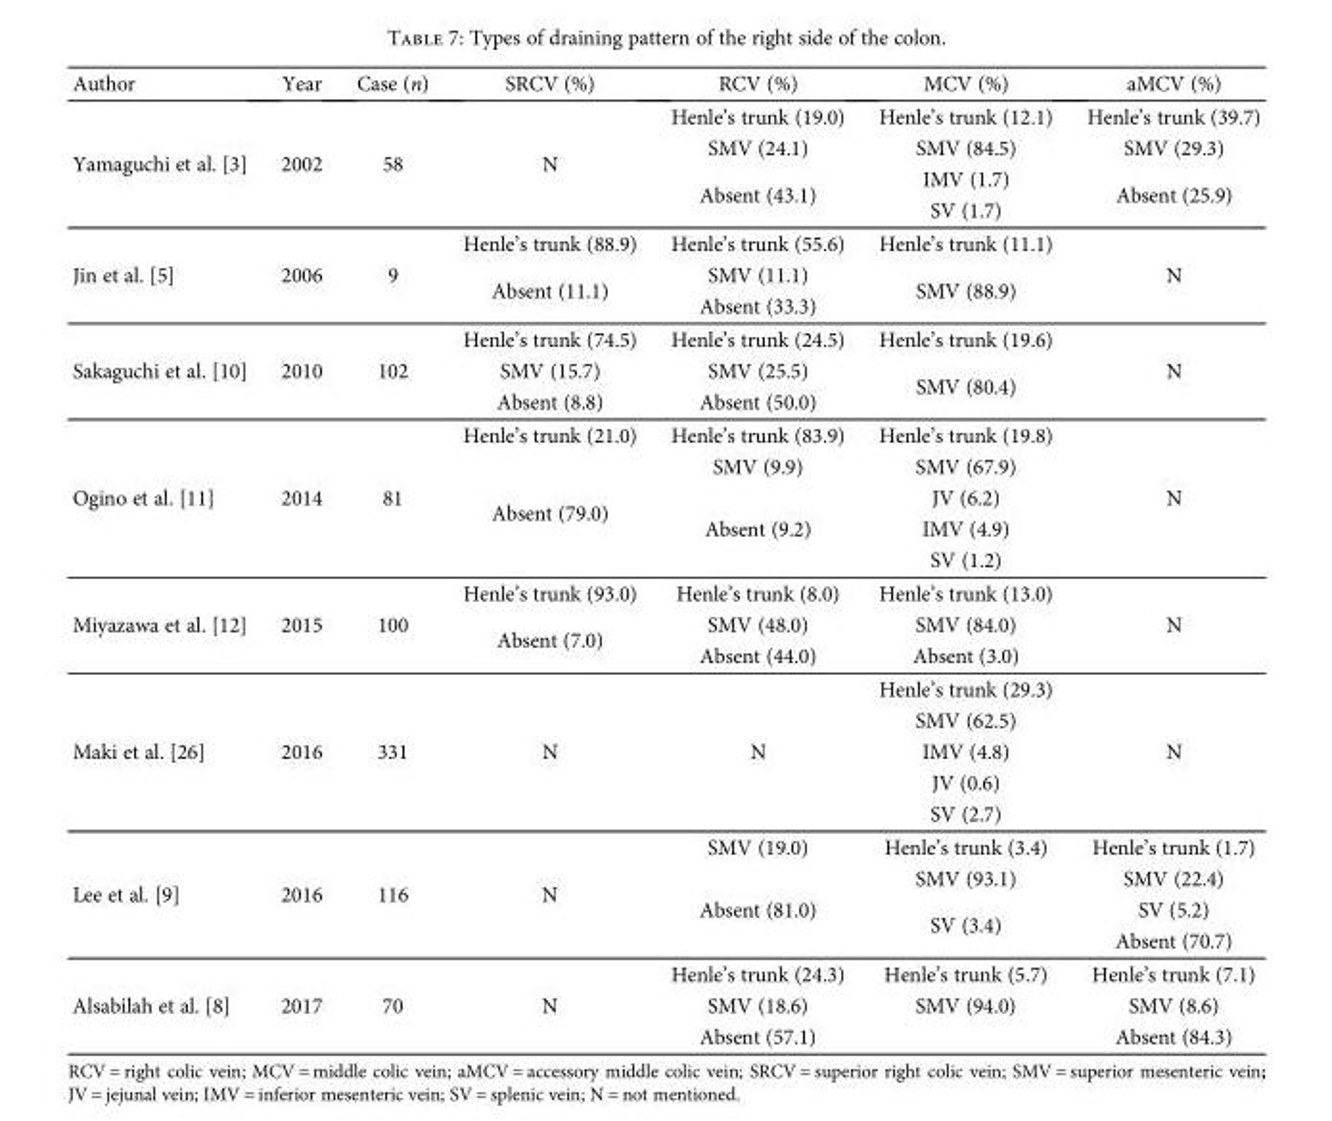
<table><thead><tr><td>Author</td><td>Year</td><td>Case (n)</td><td>SRCV (%)</td><td>RCV (%)</td><td>MCV (%)</td><td>aMCV (%)</td></tr></thead><tbody><tr><td rowspan="4">Yamaguchi et al. [3]</td><td rowspan="4">2002</td><td rowspan="4">58</td><td rowspan="4">N</td><td>Henle’s trunk (19.0)</td><td>Henle’s trunk (12.1)</td><td>Henle’s trunk (39.7)</td></tr><tr><td>SMV (24.1)</td><td>SMV (84.5)</td><td>SMV (29.3)</td></tr><tr><td rowspan="2">Absent (43.1)</td><td>IMV (1.7)</td><td rowspan="2">Absent (25.9)</td></tr><tr><td>SV (1.7)</td></tr><tr><td rowspan="3">Jin et al. [5]</td><td rowspan="3">2006</td><td rowspan="3">9</td><td>Henle’s trunk (88.9)</td><td>Henle’s trunk (55.6)</td><td>Henle’s trunk (11.1)</td><td rowspan="3">N</td></tr><tr><td rowspan="2">Absent (11.1)</td><td>SMV (11.1)</td><td rowspan="2">SMV (88.9)</td></tr><tr><td>Absent (33.3)</td></tr><tr><td rowspan="3">Sakaguchi et al. [10]</td><td rowspan="3">2010</td><td rowspan="3">102</td><td>Henle’s trunk (74.5)</td><td>Henle’s trunk (24.5)</td><td>Henle’s trunk (19.6)</td><td rowspan="3">N</td></tr><tr><td>SMV (15.7)</td><td>SMV (25.5)</td><td rowspan="2">SMV (80.4)</td></tr><tr><td>Absent (8.8)</td><td>Absent (50.0)</td></tr><tr><td rowspan="5">Ogino et al. [11]</td><td rowspan="5">2014</td><td rowspan="5">81</td><td>Henle’s trunk (21.0)</td><td>Henle’s trunk (83.9)</td><td>Henle’s trunk (19.8)</td><td rowspan="5">N</td></tr><tr><td rowspan="4">Absent (79.0)</td><td>SMV (9.9)</td><td>SMV (67.9)</td></tr><tr><td rowspan="3">Absent (9.2)</td><td>JV (6.2)</td></tr><tr><td>IMV (4.9)</td></tr><tr><td>SV (1.2)</td></tr><tr><td rowspan="3">Miyazawa et al. [12]</td><td rowspan="3">2015</td><td rowspan="3">100</td><td>Henle’s trunk (93.0)</td><td>Henle’s trunk (8.0)</td><td>Henle’s trunk (13.0)</td><td rowspan="3">N</td></tr><tr><td rowspan="2">Absent (7.0)</td><td>SMV (48.0)</td><td>SMV (84.0)</td></tr><tr><td>Absent (44.0)</td><td>Absent (3.0)</td></tr><tr><td rowspan="5">Maki et al. [26]</td><td rowspan="5">2016</td><td rowspan="5">331</td><td rowspan="5">N</td><td rowspan="5">N</td><td>Henle’s trunk (29.3)</td><td rowspan="5">N</td></tr><tr><td>SMV (62.5)</td></tr><tr><td>IMV (4.8)</td></tr><tr><td>JV (0.6)</td></tr><tr><td>SV (2.7)</td></tr><tr><td rowspan="4">Lee et al. [9]</td><td rowspan="4">2016</td><td rowspan="4">116</td><td rowspan="4">N</td><td>SMV (19.0)</td><td>Henle’s trunk (3.4)</td><td>Henle’s trunk (1.7)</td></tr><tr><td rowspan="3">Absent (81.0)</td><td>SMV (93.1)</td><td>SMV (22.4)</td></tr><tr><td rowspan="2">SV (3.4)</td><td>SV (5.2)</td></tr><tr><td>Absent (70.7)</td></tr><tr><td rowspan="3">Alsabilah et al. [8]</td><td rowspan="3">2017</td><td rowspan="3">70</td><td rowspan="3">N</td><td>Henle’s trunk (24.3)</td><td>Henle’s trunk (5.7)</td><td>Henle’s trunk (7.1)</td></tr><tr><td>SMV (18.6)</td><td>SMV (94.0)</td><td>SMV (8.6)</td></tr><tr><td>Absent (57.1)</td><td></td><td>Absent (84.3)</td></tr></tbody></table>